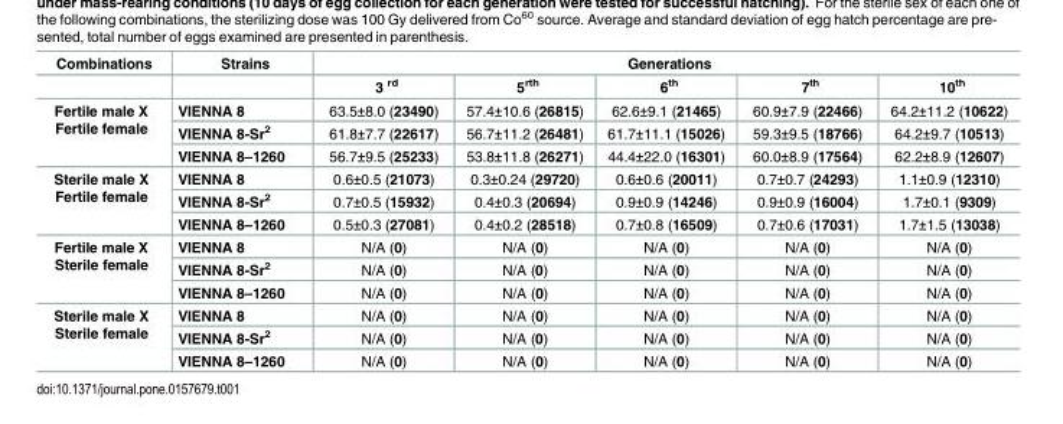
<table><thead><tr><td rowspan="2">Combinations</td><td rowspan="2">Strains</td><td colspan="5">Generations</td></tr><tr><td>3 <sup>rd</sup></td><td>5<sup>rth</sup></td><td>6<sup>th</sup></td><td>7<sup>th</sup></td><td>10<sup>th</sup></td></tr></thead><tbody><tr><td rowspan="3">Fertile male X Fertile female</td><td>VIENNA 8</td><td>63.5±8.0 (23490)</td><td>57.4±10.6 (26815)</td><td>62.6±9.1 (21465)</td><td>60.9±7.9 (22466)</td><td>64.2±11.2 (10622)</td></tr><tr><td>VIENNA 8-Sr<sup>2</sup></td><td>61.8±7.7 (22617)</td><td>56.7±11.2 (26481)</td><td>61.7±11.1 (15026)</td><td>59.3±9.5 (18766)</td><td>64.2±9.7 (10513)</td></tr><tr><td>VIENNA 8–1260</td><td>56.7±9.5 (25233)</td><td>53.8±11.8 (26271)</td><td>44.4±22.0 (16301)</td><td>60.0±8.9 (17564)</td><td>62.2±8.9 (12607)</td></tr><tr><td rowspan="3">Sterile male X Fertile female</td><td>VIENNA 8</td><td>0.6±0.5 (21073)</td><td>0.3±0.24 (29720)</td><td>0.6±0.6 (20011)</td><td>0.7±0.7 (24293)</td><td>1.1±0.9 (12310)</td></tr><tr><td>VIENNA 8-Sr<sup>2</sup></td><td>0.7±0.5 (15932)</td><td>0.4±0.3 (20694)</td><td>0.9±0.9 (14246)</td><td>0.9±0.9 (16004)</td><td>1.7±0.1 (9309)</td></tr><tr><td>VIENNA 8–1260</td><td>0.5±0.3 (27081)</td><td>0.4±0.2 (28518)</td><td>0.7±0.8 (16509)</td><td>0.7±0.6 (17031)</td><td>1.7±1.5 (13038)</td></tr><tr><td rowspan="3">Fertile male X Sterile female</td><td>VIENNA 8</td><td>N/A (0)</td><td>N/A (0)</td><td>N/A (0)</td><td>N/A (0)</td><td>N/A (0)</td></tr><tr><td>VIENNA 8-Sr<sup>2</sup></td><td>N/A (0)</td><td>N/A (0)</td><td>N/A (0)</td><td>N/A (0)</td><td>N/A (0)</td></tr><tr><td>VIENNA 8–1260</td><td>N/A (0)</td><td>N/A (0)</td><td>N/A (0)</td><td>N/A (0)</td><td>N/A (0)</td></tr><tr><td rowspan="3">Sterile male X Sterile female</td><td>VIENNA 8</td><td>N/A (0)</td><td>N/A (0)</td><td>N/A (0)</td><td>N/A (0)</td><td>N/A (0)</td></tr><tr><td>VIENNA 8-Sr<sup>2</sup></td><td>N/A (0)</td><td>N/A (0)</td><td>N/A (0)</td><td>N/A (0)</td><td>N/A (0)</td></tr><tr><td>VIENNA 8–1260</td><td>N/A (0)</td><td>N/A (0)</td><td>N/A (0)</td><td>N/A (0)</td><td>N/A (0)</td></tr></tbody></table>